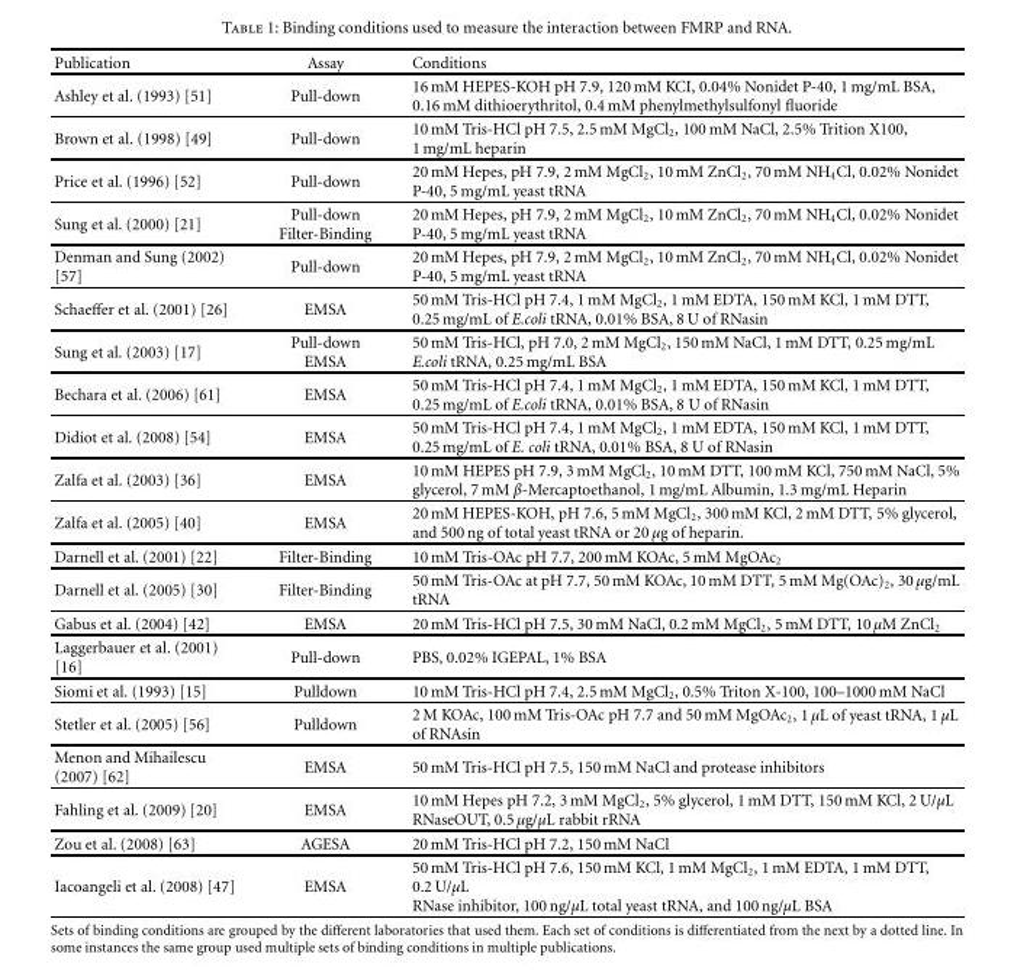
<table><thead><tr><td>Publication</td><td>Assay</td><td>Conditions</td></tr></thead><tbody><tr><td>Ashley et al. (1993) [51]</td><td>Pull-down</td><td>16 mM HEPES-KOH pH 7.9, 120 mM KCI, 0.04% Nonidet P-40, 1 mg/mL BSA, 0.16 mM dithioerythritol, 0.4 mM phenylmethylsulfonyl fluoride</td></tr><tr><td>Brown et al. (1998) [49]</td><td>Pull-down</td><td>10 mM Tris-HCl pH 7.5, 2.5 mM MgCl<sub>2</sub>, 100 mM NaCl, 2.5% Trition X100, 1 mg/mL heparin</td></tr><tr><td>Price et al. (1996) [52]</td><td>Pull-down</td><td>20 mM Hepes, pH 7.9, 2 mM MgCl<sub>2</sub>, 10 mM ZnCl<sub>2</sub>, 70 mM NH<sub>4</sub>Cl, 0.02% Nonidet P-40, 5 mg/mL yeast tRNA</td></tr><tr><td>Sung et al. (2000) [21]</td><td>Pull-down Filter-Binding</td><td>20 mM Hepes, pH 7.9, 2 mM MgCl<sub>2</sub>, 10 mM ZnCl<sub>2</sub>, 70 mM NH<sub>4</sub>Cl, 0.02% Nonidet P-40, 5 mg/mL yeast tRNA</td></tr><tr><td>Denman and Sung (2002) [57]</td><td>Pull-down</td><td>20 mM Hepes, pH 7.9, 2 mM MgCl<sub>2</sub>, 10 mM ZnCl<sub>2</sub>, 70 mM NH<sub>4</sub>Cl, 0.02% Nonidet P-40, 5 mg/mL yeast tRNA</td></tr><tr><td>Schaeffer et al. (2001) [26]</td><td>EMSA</td><td>50 mM Tris-HCl pH 7.4, 1 mM MgCl<sub>2</sub>, 1 mM EDTA, 150 mM KCl, 1 mM DTT, 0.25 mg/mL of E.coli tRNA, 0.01% BSA, 8 U of RNasin</td></tr><tr><td>Sung et al. (2003) [17]</td><td>Pull-down EMSA</td><td>50 mM Tris-HCl, pH 7.0, 2 mM MgCl<sub>2</sub>, 150 mM NaCl, 1 mM DTT, 0.25 mg/mL E.coli tRNA, 0.25 mg/mL BSA</td></tr><tr><td>Bechara et al. (2006) [61]</td><td>EMSA</td><td>50 mM Tris-HCl pH 7.4, 1 mM MgCl<sub>2</sub>, 1 mM EDTA, 150 mM KCl, 1 mM DTT, 0.25 mg/mL of E.coli tRNA, 0.01% BSA, 8 U of RNasin</td></tr><tr><td>Didiot et al. (2008) [54]</td><td>EMSA</td><td>50 mM Tris-HCl pH 7.4, 1 mM MgCl<sub>2</sub>, 1 mM EDTA, 150 mM KCl, 1 mM DTT, 0.25 mg/mL of E. coli tRNA, 0.01% BSA, 8 U of RNasin</td></tr><tr><td>Zalfa et al. (2003) [36]</td><td>EMSA</td><td>10 mM HEPES pH 7.9, 3 mM MgCl<sub>2</sub>, 10 mM DTT, 100 mM KCl, 750 mM NaCl, 5% glycerol, 7 mM β-Mercaptoethanol, 1 mg/mL Albumin, 1.3 mg/mL Heparin</td></tr><tr><td>Zalfa et al. (2005) [40]</td><td>EMSA</td><td>20 mM HEPES-KOH, pH 7.6, 5 mM MgCl<sub>2</sub>, 300 mM KCl, 2 mM DTT, 5% glycerol, and 500 ng of total yeast tRNA or 20 μg of heparin.</td></tr><tr><td>Darnell et al. (2001) [22]</td><td>Filter-Binding</td><td>10 mM Tris-OAc pH 7.7, 200 mM KOAc, 5 mM MgOAc<sub>2</sub></td></tr><tr><td>Darnell et al. (2005) [30]</td><td>Filter-Binding</td><td>50 mM Tris-OAc at pH 7.7, 50 mM KOAc, 10 mM DTT, 5 mM Mg(OAc)<sub>2</sub>, 30 μg/mL tRNA</td></tr><tr><td>Gabus et al. (2004) [42]</td><td>EMSA</td><td>20 mM Tris-HCl pH 7.5, 30 mM NaCl, 0.2 mM MgCl<sub>2</sub>, 5 mM DTT, 10 μM ZnCl<sub>2</sub></td></tr><tr><td>Laggerbauer et al. (2001) [16]</td><td>Pull-down</td><td>PBS, 0.02% IGEPAL, 1% BSA</td></tr><tr><td>Siomi et al. (1993) [15]</td><td>Pulldown</td><td>10 mM Tris-HCl pH 7.4, 2.5 mM MgCl<sub>2</sub>, 0.5% Triton X-100, 100–1000 mM NaCl</td></tr><tr><td>Stetler et al. (2005) [56]</td><td>Pulldown</td><td>2 M KOAc, 100 mM Tris-OAc pH 7.7 and 50 mM MgOAc<sub>2</sub>, 1 μL of yeast tRNA, 1 μL of RNAsin</td></tr><tr><td>Menon and Mihailescu (2007) [62]</td><td>EMSA</td><td>50 mM Tris-HCl pH 7.5, 150 mM NaCl and protease inhibitors</td></tr><tr><td>Fahling et al. (2009) [20]</td><td>EMSA</td><td>10 mM Hepes pH 7.2, 3 mM MgCl<sub>2</sub>, 5% glycerol, 1 mM DTT, 150 mM KCl, 2 U/μL RNaseOUT, 0.5 μg/μL rabbit rRNA</td></tr><tr><td>Zou et al. (2008) [63]</td><td>AGESA</td><td>20 mM Tris-HCl pH 7.2, 150 mM NaCl</td></tr><tr><td>Iacoangeli et al. (2008) [47]</td><td>EMSA</td><td>50 mM Tris-HCl pH 7.6, 150 mM KCl, 1 mM MgCl<sub>2</sub>, 1 mM EDTA, 1 mM DTT, 0.2 U/μL RNase inhibitor, 100 ng/μL total yeast tRNA, and 100 ng/μL BSA</td></tr></tbody></table>